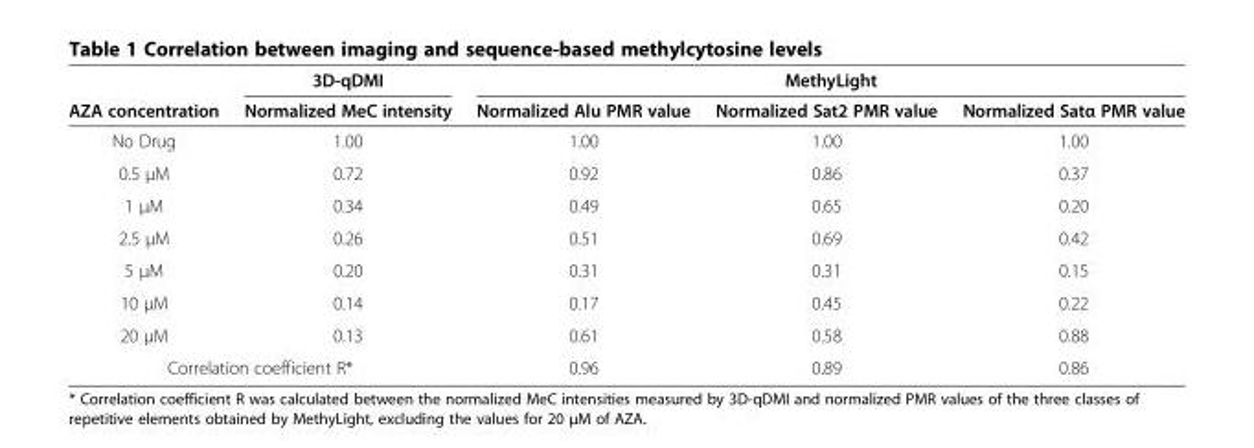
<table><thead><tr><td rowspan="2">AZA concentration</td><td rowspan="2">3D-qDMI Normalized MeC intensity</td><td colspan="3">MethyLight</td></tr><tr><td>Normalized Alu PMR value</td><td>Normalized Sat2 PMR value</td><td>Normalized Satα PMR value</td></tr></thead><tbody><tr><td>No Drug</td><td>1.00</td><td>1.00</td><td>1.00</td><td>1.00</td></tr><tr><td>0.5 μM</td><td>0.72</td><td>0.92</td><td>0.86</td><td>0.37</td></tr><tr><td>1 μM</td><td>0.34</td><td>0.49</td><td>0.65</td><td>0.20</td></tr><tr><td>2.5 μM</td><td>0.26</td><td>0.51</td><td>0.69</td><td>0.42</td></tr><tr><td>5 μM</td><td>0.20</td><td>0.31</td><td>0.31</td><td>0.15</td></tr><tr><td>10 μM</td><td>0.14</td><td>0.17</td><td>0.45</td><td>0.22</td></tr><tr><td>20 μM</td><td>0.13</td><td>0.61</td><td>0.58</td><td>0.88</td></tr><tr><td colspan="2">Correlation coefficient R*</td><td>0.96</td><td>0.89</td><td>0.86</td></tr></tbody></table>